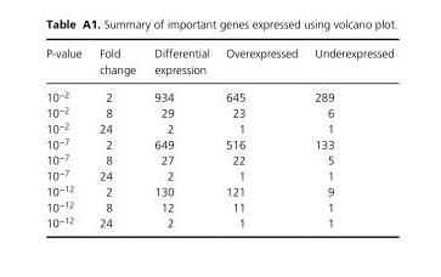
<table><thead><tr><td>P- value</td><td>Fold change</td><td>Differential expression</td><td>Overexpressed</td><td>Underexpressed</td></tr></thead><tbody><tr><td>10<sup>−2</sup></td><td>2</td><td>934</td><td>645</td><td>289</td></tr><tr><td>10<sup>−2</sup></td><td>8</td><td>29</td><td>23</td><td>6</td></tr><tr><td>10<sup>−2</sup></td><td>24</td><td>2</td><td>1</td><td>1</td></tr><tr><td>10<sup>−7</sup></td><td>2</td><td>649</td><td>516</td><td>133</td></tr><tr><td>10<sup>−7</sup></td><td>8</td><td>27</td><td>22</td><td>5</td></tr><tr><td>10<sup>−7</sup></td><td>24</td><td>2</td><td>1</td><td>1</td></tr><tr><td>10<sup>−12</sup></td><td>2</td><td>130</td><td>121</td><td>9</td></tr><tr><td>10<sup>−12</sup></td><td>8</td><td>12</td><td>11</td><td>1</td></tr><tr><td>10<sup>−12</sup></td><td>24</td><td>2</td><td>1</td><td>1</td></tr></tbody></table>